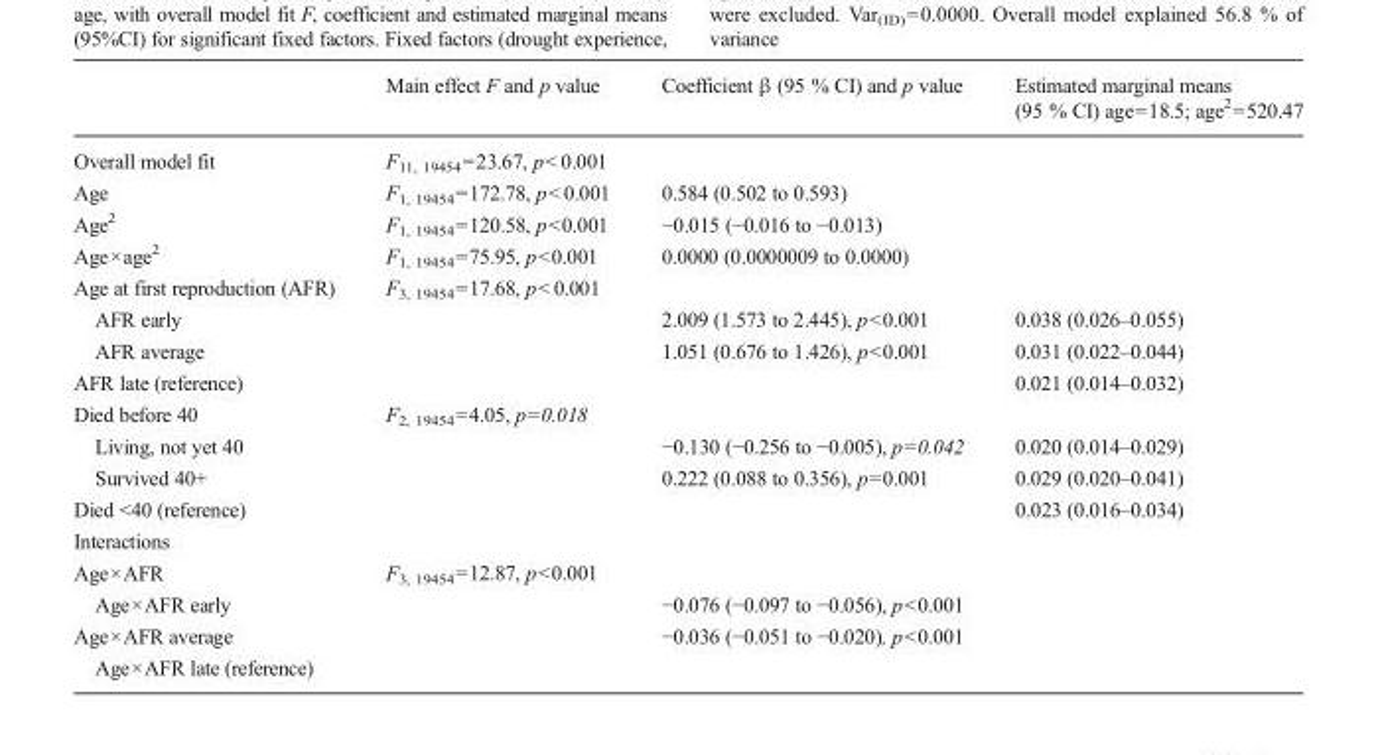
<table><thead><tr><td></td><td>Main effect F and p value</td><td>Coefficient β (95 % CI) and p value</td><td>Estimated marginal means (95 % CI) age=18.5; age<sup>2</sup>=520.47</td></tr></thead><tbody><tr><td>Overall model fit</td><td>F<sub>11, 19454</sub>=23.67, p&lt;0.001</td><td></td><td></td></tr><tr><td>Age</td><td>F<sub>1, 19454</sub>=172.78, p&lt;0.001</td><td>0.584 (0.502 to 0.593)</td><td></td></tr><tr><td>Age<sup>2</sup></td><td>F<sub>1, 19454</sub>=120.58, p&lt;0.001</td><td>−0.015 (−0.016 to −0.013)</td><td></td></tr><tr><td>Age×age<sup>2</sup></td><td>F<sub>1, 19454</sub>=75.95, p&lt;0.001</td><td>0.0000 (0.0000009 to 0.0000)</td><td></td></tr><tr><td>Age at first reproduction (AFR)</td><td>F<sub>3, 19454</sub>=17.68, p&lt;0.001</td><td></td><td></td></tr><tr><td>AFR early</td><td></td><td>2.009 (1.573 to 2.445), p&lt;0.001</td><td>0.038 (0.026–0.055)</td></tr><tr><td>AFR average</td><td></td><td>1.051 (0.676 to 1.426), p&lt;0.001</td><td>0.031 (0.022–0.044)</td></tr><tr><td>AFR late (reference)</td><td></td><td></td><td>0.021 (0.014–0.032)</td></tr><tr><td>Died before 40</td><td>F<sub>2, 19454</sub>=4.05, p=0.018</td><td></td><td></td></tr><tr><td>Living, not yet 40</td><td></td><td>−0.130 (−0.256 to −0.005), p=0.042</td><td>0.020 (0.014–0.029)</td></tr><tr><td>Survived 40+</td><td></td><td>0.222 (0.088 to 0.356), p=0.001</td><td>0.029 (0.020–0.041)</td></tr><tr><td>Died &lt;40 (reference)</td><td></td><td></td><td>0.023 (0.016–0.034)</td></tr><tr><td colspan="4">Interactions</td></tr><tr><td>Age×AFR</td><td>F<sub>3, 19454</sub>=12.87, p&lt;0.001</td><td></td><td></td></tr><tr><td>Age×AFR early</td><td></td><td>−0.076 (−0.097 to −0.056), p&lt;0.001</td><td></td></tr><tr><td>Age×AFR average</td><td></td><td>−0.036 (−0.051 to −0.020), p&lt;0.001</td><td></td></tr><tr><td>Age×AFR late (reference)</td><td></td><td></td><td></td></tr></tbody></table>